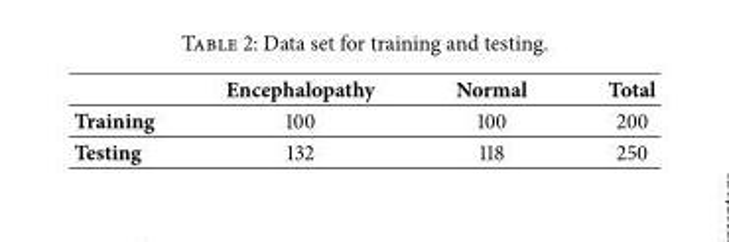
<table><thead><tr><td></td><td>Encephalopathy</td><td>Normal</td><td>Total</td></tr></thead><tbody><tr><td>Training</td><td>100</td><td>100</td><td>200</td></tr><tr><td>Testing</td><td>132</td><td>118</td><td>250</td></tr></tbody></table>